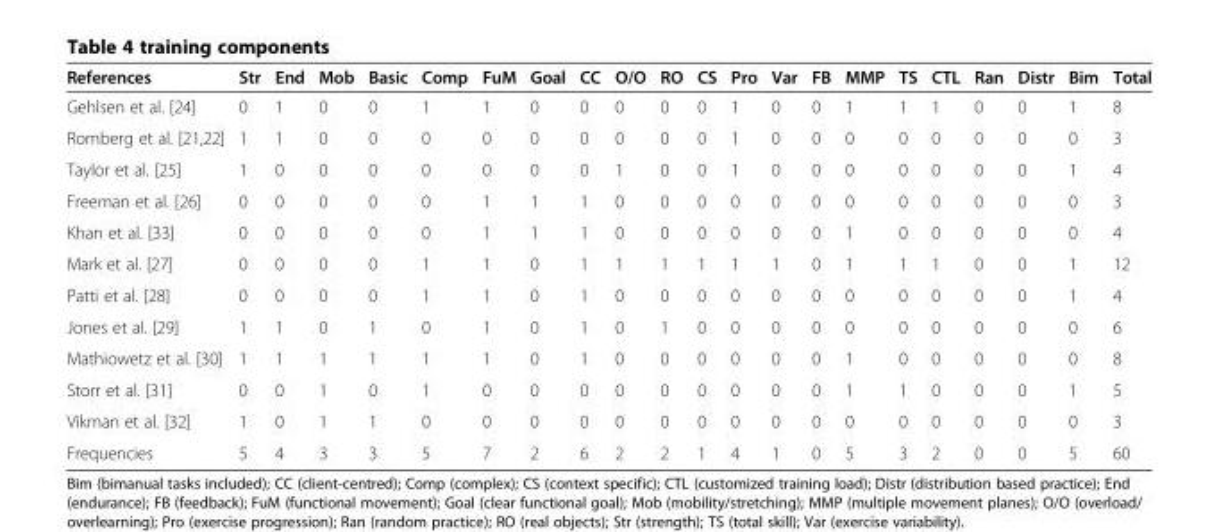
<table><thead><tr><td>References</td><td>Str</td><td>End</td><td>Mob</td><td>Basic</td><td>Comp</td><td>FuM</td><td>Goal</td><td>CC</td><td>O/O</td><td>RO</td><td>CS</td><td>Pro</td><td>Var</td><td>FB</td><td>MMP</td><td>TS</td><td>CTL</td><td>Ran</td><td>Distr</td><td>Bim</td><td>Total</td></tr></thead><tbody><tr><td>Gehlsen et al. [24]</td><td>0</td><td>1</td><td>0</td><td>0</td><td>1</td><td>1</td><td>0</td><td>0</td><td>0</td><td>0</td><td>0</td><td>1</td><td>0</td><td>0</td><td>1</td><td>1</td><td>1</td><td>0</td><td>0</td><td>1</td><td>8</td></tr><tr><td>Romberg et al. [21,22]</td><td>1</td><td>1</td><td>0</td><td>0</td><td>0</td><td>0</td><td>0</td><td>0</td><td>0</td><td>0</td><td>0</td><td>1</td><td>0</td><td>0</td><td>0</td><td>0</td><td>0</td><td>0</td><td>0</td><td>0</td><td>3</td></tr><tr><td>Taylor et al. [25]</td><td>1</td><td>0</td><td>0</td><td>0</td><td>0</td><td>0</td><td>0</td><td>0</td><td>1</td><td>0</td><td>0</td><td>1</td><td>0</td><td>0</td><td>0</td><td>0</td><td>0</td><td>0</td><td>0</td><td>1</td><td>4</td></tr><tr><td>Freeman et al. [26]</td><td>0</td><td>0</td><td>0</td><td>0</td><td>0</td><td>1</td><td>1</td><td>1</td><td>0</td><td>0</td><td>0</td><td>0</td><td>0</td><td>0</td><td>0</td><td>0</td><td>0</td><td>0</td><td>0</td><td>0</td><td>3</td></tr><tr><td>Khan et al. [33]</td><td>0</td><td>0</td><td>0</td><td>0</td><td>0</td><td>1</td><td>1</td><td>1</td><td>0</td><td>0</td><td>0</td><td>0</td><td>0</td><td>0</td><td>1</td><td>0</td><td>0</td><td>0</td><td>0</td><td>0</td><td>4</td></tr><tr><td>Mark et al. [27]</td><td>0</td><td>0</td><td>0</td><td>0</td><td>1</td><td>1</td><td>0</td><td>1</td><td>1</td><td>1</td><td>1</td><td>1</td><td>1</td><td>0</td><td>1</td><td>1</td><td>1</td><td>0</td><td>0</td><td>1</td><td>12</td></tr><tr><td>Patti et al. [28]</td><td>0</td><td>0</td><td>0</td><td>0</td><td>1</td><td>1</td><td>0</td><td>1</td><td>0</td><td>0</td><td>0</td><td>0</td><td>0</td><td>0</td><td>0</td><td>0</td><td>0</td><td>0</td><td>0</td><td>1</td><td>4</td></tr><tr><td>Jones et al. [29]</td><td>1</td><td>1</td><td>0</td><td>1</td><td>0</td><td>1</td><td>0</td><td>1</td><td>0</td><td>1</td><td>0</td><td>0</td><td>0</td><td>0</td><td>0</td><td>0</td><td>0</td><td>0</td><td>0</td><td>0</td><td>6</td></tr><tr><td>Mathiowetz et al. [30]</td><td>1</td><td>1</td><td>1</td><td>1</td><td>1</td><td>1</td><td>0</td><td>1</td><td>0</td><td>0</td><td>0</td><td>0</td><td>0</td><td>0</td><td>1</td><td>0</td><td>0</td><td>0</td><td>0</td><td>0</td><td>8</td></tr><tr><td>Storr et al. [31]</td><td>0</td><td>0</td><td>1</td><td>0</td><td>1</td><td>0</td><td>0</td><td>0</td><td>0</td><td>0</td><td>0</td><td>0</td><td>0</td><td>0</td><td>1</td><td>1</td><td>0</td><td>0</td><td>0</td><td>1</td><td>5</td></tr><tr><td>Vikman et al. [32]</td><td>1</td><td>0</td><td>1</td><td>1</td><td>0</td><td>0</td><td>0</td><td>0</td><td>0</td><td>0</td><td>0</td><td>0</td><td>0</td><td>0</td><td>0</td><td>0</td><td>0</td><td>0</td><td>0</td><td>0</td><td>3</td></tr><tr><td>Frequencies</td><td>5</td><td>4</td><td>3</td><td>3</td><td>5</td><td>7</td><td>2</td><td>6</td><td>2</td><td>2</td><td>1</td><td>4</td><td>1</td><td>0</td><td>5</td><td>3</td><td>2</td><td>0</td><td>0</td><td>5</td><td>60</td></tr></tbody></table>